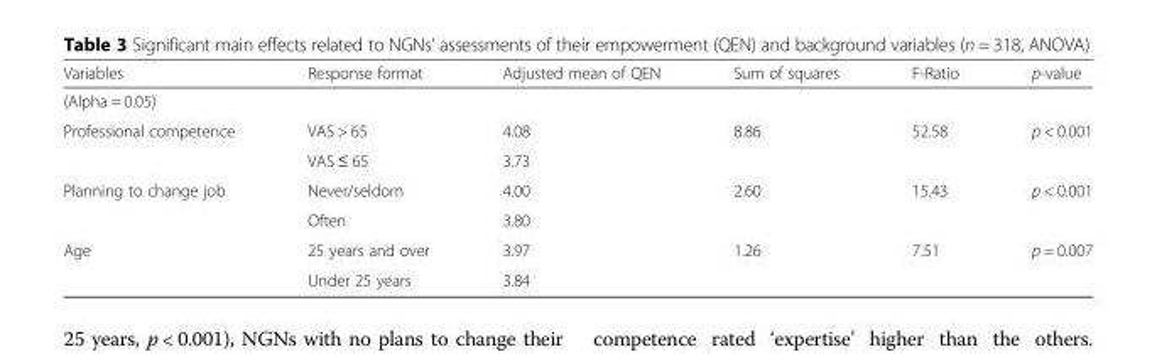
<table><thead><tr><td>Variables</td><td>Response format</td><td>Adjusted mean of QEN</td><td>Sum of squares</td><td>F-Ratio</td><td>p-value</td></tr></thead><tbody><tr><td colspan="6">(Alpha = 0.05)</td></tr><tr><td rowspan="2">Professional competence</td><td>VAS &gt; 65</td><td>4.08</td><td>8.86</td><td>52.58</td><td>p &lt; 0.001</td></tr><tr><td>VAS ≤ 65</td><td>3.73</td><td></td><td></td><td></td></tr><tr><td rowspan="2">Planning to change job</td><td>Never/seldom</td><td>4.00</td><td>2.60</td><td>15.43</td><td>p &lt; 0.001</td></tr><tr><td>Often</td><td>3.80</td><td></td><td></td><td></td></tr><tr><td rowspan="2">Age</td><td>25 years and over</td><td>3.97</td><td>1.26</td><td>7.51</td><td>p = 0.007</td></tr><tr><td>Under 25 years</td><td>3.84</td><td></td><td></td><td></td></tr></tbody></table>